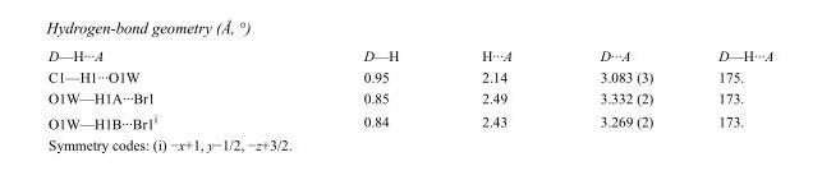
<table><tbody><tr><td>D—H···A</td><td>D—H</td><td>H···A</td><td>D···A</td><td>D—H···A</td></tr><tr><td>C1—H1···O1W</td><td>0.95</td><td>2.14</td><td>3.083 (3)</td><td>175.</td></tr><tr><td>O1W—H1A···Br1</td><td>0.85</td><td>2.49</td><td>3.332 (2)</td><td>173.</td></tr><tr><td>O1W—H1B···Br1<sup>i</sup></td><td>0.84</td><td>2.43</td><td>3.269 (2)</td><td>173.</td></tr></tbody></table>